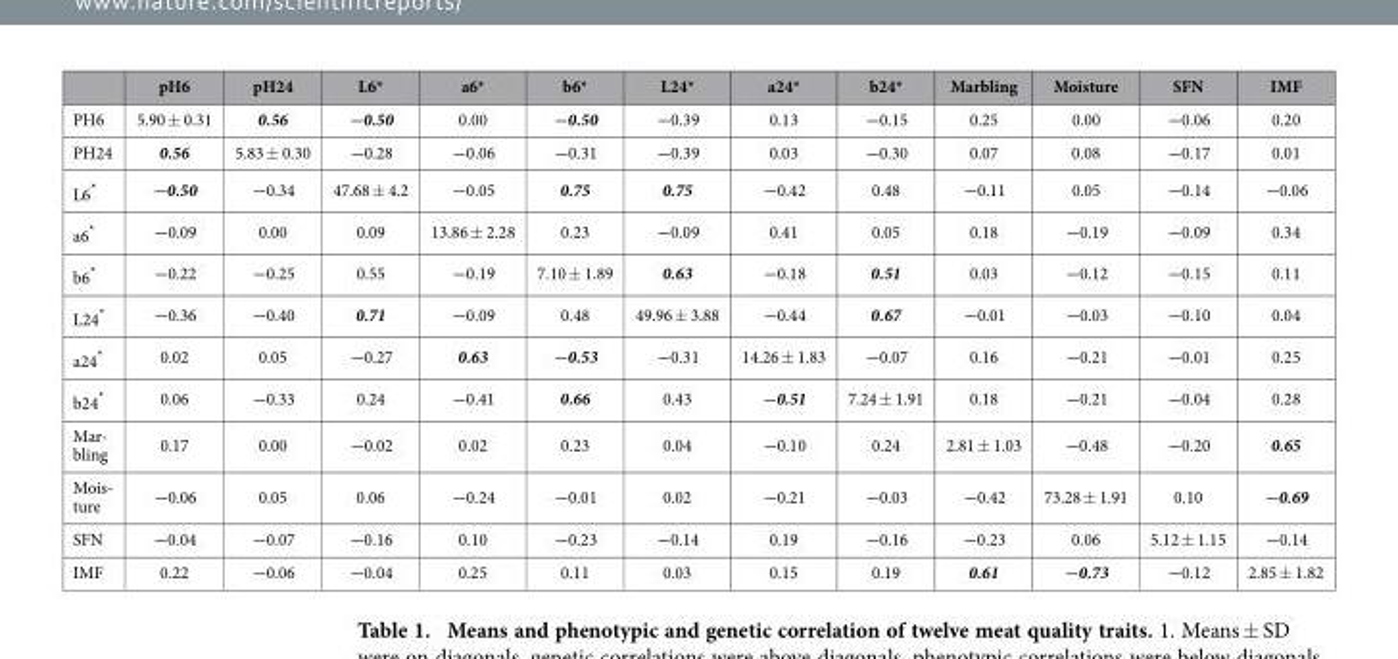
<table><thead><tr><td></td><td>pH6</td><td>pH24</td><td>L6*</td><td>a6*</td><td>b6*</td><td>L24*</td><td>a24*</td><td>b24*</td><td>Marbling</td><td>Moisture</td><td>SFN</td><td>IMF</td></tr></thead><tbody><tr><td>PH6</td><td>5.90 ± 0.31</td><td>0.56</td><td>−0.50</td><td>0.00</td><td>−0.50</td><td>−0.39</td><td>0.13</td><td>−0.15</td><td>0.25</td><td>0.00</td><td>−0.06</td><td>0.20</td></tr><tr><td>PH24</td><td>0.56</td><td>5.83 ± 0.30</td><td>−0.28</td><td>−0.06</td><td>−0.31</td><td>−0.39</td><td>0.03</td><td>−0.30</td><td>0.07</td><td>0.08</td><td>−0.17</td><td>0.01</td></tr><tr><td>L6*</td><td>−0.50</td><td>−0.34</td><td>47.68 ± 4.2</td><td>−0.05</td><td>0.75</td><td>0.75</td><td>−0.42</td><td>0.48</td><td>−0.11</td><td>0.05</td><td>−0.14</td><td>−0.06</td></tr><tr><td>a6*</td><td>−0.09</td><td>0.00</td><td>0.09</td><td>13.86 ± 2.28</td><td>0.23</td><td>−0.09</td><td>0.41</td><td>0.05</td><td>0.18</td><td>−0.19</td><td>−0.09</td><td>0.34</td></tr><tr><td>b6*</td><td>−0.22</td><td>−0.25</td><td>0.55</td><td>−0.19</td><td>7.10 ± 1.89</td><td>0.63</td><td>−0.18</td><td>0.51</td><td>0.03</td><td>−0.12</td><td>−0.15</td><td>0.11</td></tr><tr><td>L24*</td><td>−0.36</td><td>−0.40</td><td>0.71</td><td>−0.09</td><td>0.48</td><td>49.96 ± 3.88</td><td>−0.44</td><td>0.67</td><td>−0.01</td><td>−0.03</td><td>−0.10</td><td>0.04</td></tr><tr><td>a24*</td><td>0.02</td><td>0.05</td><td>−0.27</td><td>0.63</td><td>−0.53</td><td>−0.31</td><td>14.26 ± 1.83</td><td>−0.07</td><td>0.16</td><td>−0.21</td><td>−0.01</td><td>0.25</td></tr><tr><td>b24*</td><td>0.06</td><td>−0.33</td><td>0.24</td><td>−0.41</td><td>0.66</td><td>0.43</td><td>−0.51</td><td>7.24 ± 1.91</td><td>0.18</td><td>−0.21</td><td>−0.04</td><td>0.28</td></tr><tr><td>Mar- bling</td><td>0.17</td><td>0.00</td><td>−0.02</td><td>0.02</td><td>0.23</td><td>0.04</td><td>−0.10</td><td>0.24</td><td>2.81 ± 1.03</td><td>−0.48</td><td>−0.20</td><td>0.65</td></tr><tr><td>Mois- ture</td><td>−0.06</td><td>0.05</td><td>0.06</td><td>−0.24</td><td>−0.01</td><td>0.02</td><td>−0.21</td><td>−0.03</td><td>−0.42</td><td>73.28 ± 1.91</td><td>0.10</td><td>−0.69</td></tr><tr><td>SFN</td><td>−0.04</td><td>−0.07</td><td>−0.16</td><td>0.10</td><td>−0.23</td><td>−0.14</td><td>0.19</td><td>−0.16</td><td>−0.23</td><td>0.06</td><td>5.12 ± 1.15</td><td>−0.14</td></tr><tr><td>IMF</td><td>0.22</td><td>−0.06</td><td>−0.04</td><td>0.25</td><td>0.11</td><td>0.03</td><td>0.15</td><td>0.19</td><td>0.61</td><td>−0.73</td><td>−0.12</td><td>2.85 ± 1.82</td></tr></tbody></table>